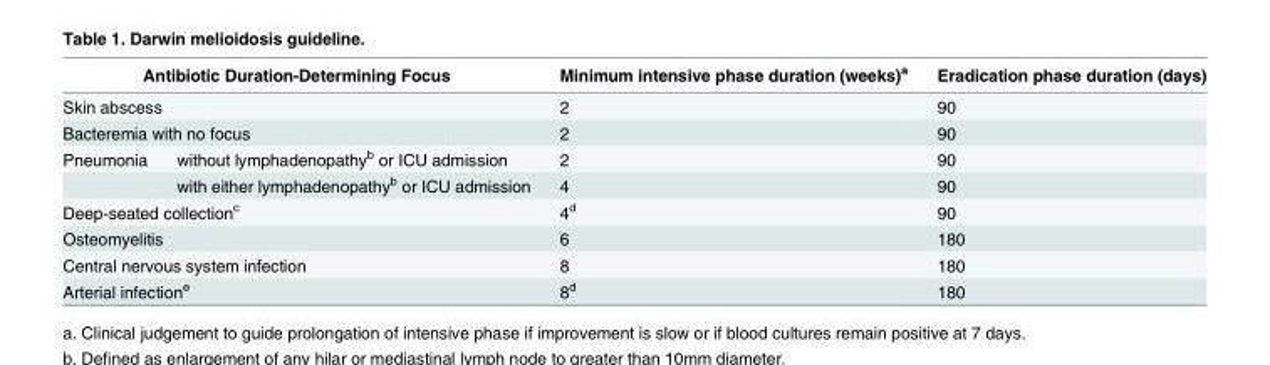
<table><thead><tr><td rowspan="3" colspan="2">Antibiotic Duration-Determining Focus Skin abscess Bacteremia with no focus</td><td rowspan="4">Minimum intensive phase duration (weeks)<sup>a</sup> 2 2 2</td><td rowspan="4">Eradication phase duration (days) 90 90 90</td></tr><tr></tr><tr></tr><tr><td>Pneumonia</td><td>without lymphadenopathy<sup>b</sup> or ICU admission</td></tr></thead><tbody><tr><td></td><td>with either lymphadenopathy<sup>b</sup> or ICU admission</td><td>4</td><td>90</td></tr><tr><td colspan="2">Deep-seated collection<sup>c</sup></td><td>4<sup>d</sup></td><td>90</td></tr><tr><td colspan="2">Osteomyelitis</td><td>6</td><td>180</td></tr><tr><td colspan="2">Central nervous system infection</td><td>8</td><td>180</td></tr><tr><td colspan="2">Arterial infection<sup>e</sup></td><td>8<sup>d</sup></td><td>180</td></tr></tbody></table>